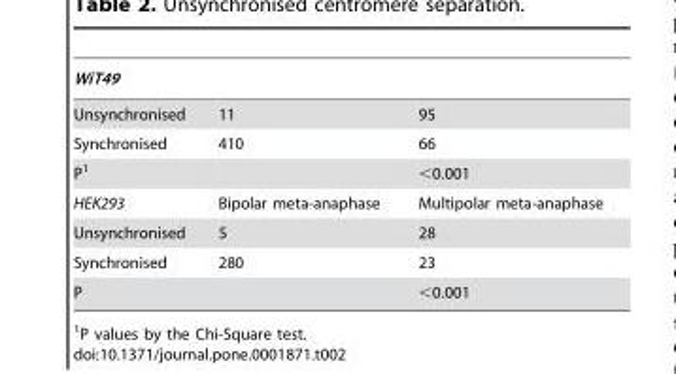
<table><thead><tr><td>WiT49</td><td></td><td></td></tr></thead><tbody><tr><td>Unsynchronised</td><td>11</td><td>95</td></tr><tr><td>Synchronised</td><td>410</td><td>66</td></tr><tr><td>P<sup>1</sup></td><td></td><td>&lt;0.001</td></tr><tr><td>HEK293</td><td>Bipolar meta-anaphase</td><td>Multipolar meta-anaphase</td></tr><tr><td>Unsynchronised</td><td>5</td><td>28</td></tr><tr><td>Synchronised</td><td>280</td><td>23</td></tr><tr><td>P</td><td></td><td>&lt;0.001</td></tr></tbody></table>